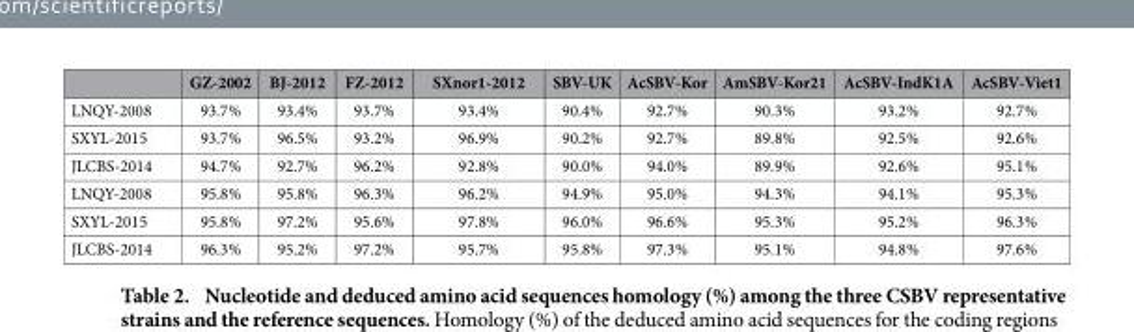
<table><thead><tr><td></td><td>GZ-2002</td><td>BJ-2012</td><td>FZ-2012</td><td>SXnor1-2012</td><td>SBV-UK</td><td>AcSBV-Kor</td><td>AmSBV-Kor21</td><td>AcSBV-IndK1A</td><td>AcSBV-Viet1</td></tr></thead><tbody><tr><td>LNQY-2008</td><td>93.7%</td><td>93.4%</td><td>93.7%</td><td>93.4%</td><td>90.4%</td><td>92.7%</td><td>90.3%</td><td>93.2%</td><td>92.7%</td></tr><tr><td>SXYL-2015</td><td>93.7%</td><td>96.5%</td><td>93.2%</td><td>96.9%</td><td>90.2%</td><td>92.7%</td><td>89.8%</td><td>92.5%</td><td>92.6%</td></tr><tr><td>JLCBS-2014</td><td>94.7%</td><td>92.7%</td><td>96.2%</td><td>92.8%</td><td>90.0%</td><td>94.0%</td><td>89.9%</td><td>92.6%</td><td>95.1%</td></tr><tr><td>LNQY-2008</td><td>95.8%</td><td>95.8%</td><td>96.3%</td><td>96.2%</td><td>94.9%</td><td>95.0%</td><td>94.3%</td><td>94.1%</td><td>95.3%</td></tr><tr><td>SXYL-2015</td><td>95.8%</td><td>97.2%</td><td>95.6%</td><td>97.8%</td><td>96.0%</td><td>96.6%</td><td>95.3%</td><td>95.2%</td><td>96.3%</td></tr><tr><td>JLCBS-2014</td><td>96.3%</td><td>95.2%</td><td>97.2%</td><td>95.7%</td><td>95.8%</td><td>97.3%</td><td>95.1%</td><td>94.8%</td><td>97.6%</td></tr></tbody></table>